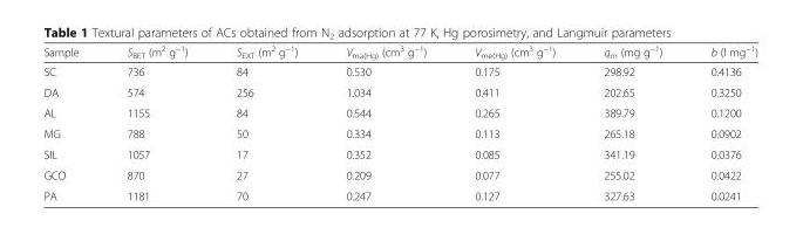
<table><thead><tr><td>Sample</td><td>S<sub>BET</sub> (m<sup>2</sup> g<sup>−1</sup>)</td><td>S<sub>EXT</sub> (m<sup>2</sup> g<sup>−1</sup>)</td><td>V<sub>ma(Hg)</sub> (cm<sup>3</sup> g<sup>−1</sup>)</td><td>V<sub>me(Hg)</sub> (cm<sup>3</sup> g<sup>−1</sup>)</td><td>q<sub>m</sub> (mg g<sup>−1</sup>)</td><td>b (l mg<sup>−1</sup>)</td></tr></thead><tbody><tr><td>SC</td><td>736</td><td>84</td><td>0.530</td><td>0.175</td><td>298.92</td><td>0.4136</td></tr><tr><td>DA</td><td>574</td><td>256</td><td>1.034</td><td>0.411</td><td>202.65</td><td>0.3250</td></tr><tr><td>AL</td><td>1155</td><td>84</td><td>0.544</td><td>0.265</td><td>389.79</td><td>0.1200</td></tr><tr><td>MG</td><td>788</td><td>50</td><td>0.334</td><td>0.113</td><td>265.18</td><td>0.0902</td></tr><tr><td>SIL</td><td>1057</td><td>17</td><td>0.352</td><td>0.085</td><td>341.19</td><td>0.0376</td></tr><tr><td>GCO</td><td>870</td><td>27</td><td>0.209</td><td>0.077</td><td>255.02</td><td>0.0422</td></tr><tr><td>PA</td><td>1181</td><td>70</td><td>0.247</td><td>0.127</td><td>327.63</td><td>0.0241</td></tr></tbody></table>